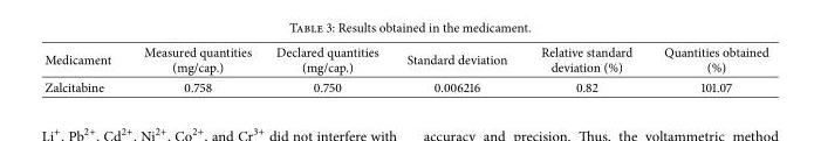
<table><thead><tr><td>Medicament</td><td>Measured quantities (mg/cap.)</td><td>Declared quantities (mg/cap.)</td><td>Standard deviation</td><td>Relative standard deviation (%)</td><td>Quantities obtained (%)</td></tr></thead><tbody><tr><td>Zalcitabine</td><td>0.758</td><td>0.750</td><td>0.006216</td><td>0.82</td><td>101.07</td></tr></tbody></table>